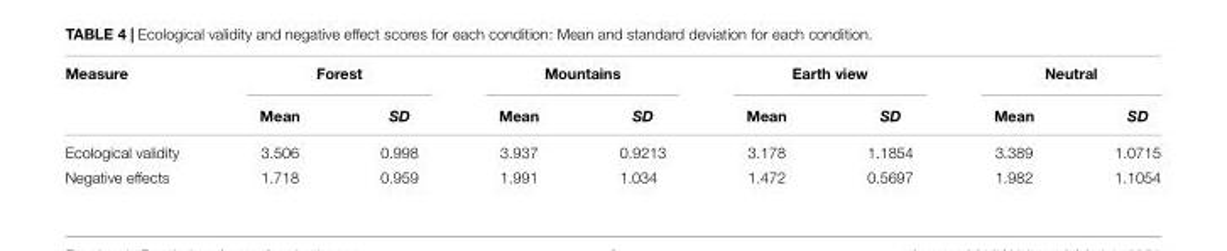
<table><thead><tr><td rowspan="2">Measure</td><td colspan="2">Forest</td><td colspan="2">Mountains</td><td colspan="2">Earth view</td><td colspan="2">Neutral</td></tr><tr><td>Mean</td><td>SD</td><td>Mean</td><td>SD</td><td>Mean</td><td>SD</td><td>Mean</td><td>SD</td></tr></thead><tbody><tr><td>Ecological validity</td><td>3.506</td><td>0.998</td><td>3.937</td><td>0.9213</td><td>3.178</td><td>1.1854</td><td>3.389</td><td>1.0715</td></tr><tr><td>Negative effects</td><td>1.718</td><td>0.959</td><td>1.991</td><td>1.034</td><td>1.472</td><td>0.5697</td><td>1.982</td><td>1.1054</td></tr></tbody></table>